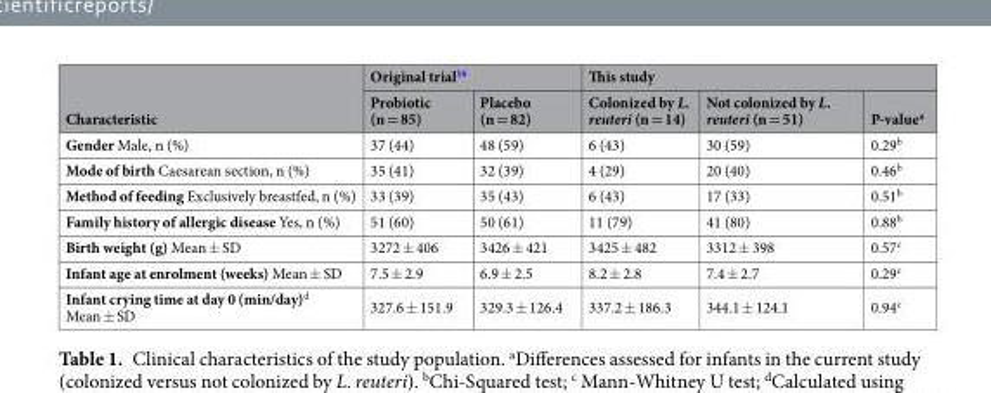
<table><thead><tr><td rowspan="2">Characteristic</td><td colspan="2">Original trial<sup>16</sup></td><td colspan="3">This study</td></tr><tr><td>Probiotic (n = 85)</td><td>Placebo (n = 82)</td><td>Colonized by L. reuteri (n = 14)</td><td>Not colonized by L. reuteri (n = 51)</td><td>P-value<sup>a</sup></td></tr></thead><tbody><tr><td>Gender Male, n (%)</td><td>37 (44)</td><td>48 (59)</td><td>6 (43)</td><td>30 (59)</td><td>0.29<sup>b</sup></td></tr><tr><td>Mode of birth Caesarean section, n (%)</td><td>35 (41)</td><td>32 (39)</td><td>4 (29)</td><td>20 (40)</td><td>0.46<sup>b</sup></td></tr><tr><td>Method of feeding Exclusively breastfed, n (%)</td><td>33 (39)</td><td>35 (43)</td><td>6 (43)</td><td>17 (33)</td><td>0.51<sup>b</sup></td></tr><tr><td>Family history of allergic disease Yes, n (%)</td><td>51 (60)</td><td>50 (61)</td><td>11 (79)</td><td>41 (80)</td><td>0.88<sup>b</sup></td></tr><tr><td>Birth weight (g) Mean ± SD</td><td>3272 ± 406</td><td>3426 ± 421</td><td>3425 ± 482</td><td>3312 ± 398</td><td>0.57<sup>c</sup></td></tr><tr><td>Infant age at enrolment (weeks) Mean ± SD</td><td>7.5 ± 2.9</td><td>6.9 ± 2.5</td><td>8.2 ± 2.8</td><td>7.4 ± 2.7</td><td>0.29<sup>c</sup></td></tr><tr><td>Infant crying time at day 0 (min/day)<sup>d</sup> Mean ± SD</td><td>327.6 ± 151.9</td><td>329.3 ± 126.4</td><td>337.2 ± 186.3</td><td>344.1 ± 124.1</td><td>0.94<sup>c</sup></td></tr></tbody></table>